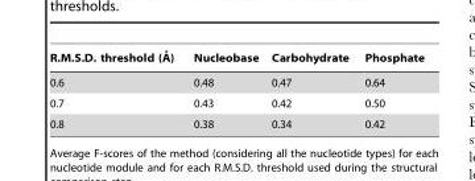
<table><thead><tr><td>R.M.S.D. threshold (A˚ )</td><td>Nucleobase</td><td>Carbohydrate</td><td>Phosphate</td></tr></thead><tbody><tr><td>0.6</td><td>0.48</td><td>0.47</td><td>0.64</td></tr><tr><td>0.7</td><td>0.43</td><td>0.42</td><td>0.50</td></tr><tr><td>0.8</td><td>0.38</td><td>0.34</td><td>0.42</td></tr></tbody></table>